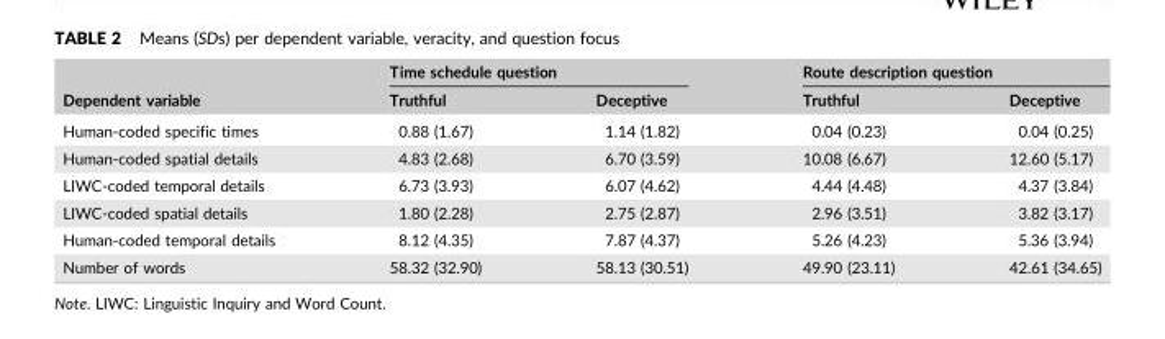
<table><thead><tr><td rowspan="2">Dependent variable</td><td colspan="2">Time schedule question</td><td colspan="2">Route description question</td></tr><tr><td>Truthful</td><td>Deceptive</td><td>Truthful</td><td>Deceptive</td></tr></thead><tbody><tr><td>Human‐coded specific times</td><td>0.88 (1.67)</td><td>1.14 (1.82)</td><td>0.04 (0.23)</td><td>0.04 (0.25)</td></tr><tr><td>Human‐coded spatial details</td><td>4.83 (2.68)</td><td>6.70 (3.59)</td><td>10.08 (6.67)</td><td>12.60 (5.17)</td></tr><tr><td>LIWC‐coded temporal details</td><td>6.73 (3.93)</td><td>6.07 (4.62)</td><td>4.44 (4.48)</td><td>4.37 (3.84)</td></tr><tr><td>LIWC‐coded spatial details</td><td>1.80 (2.28)</td><td>2.75 (2.87)</td><td>2.96 (3.51)</td><td>3.82 (3.17)</td></tr><tr><td>Human‐coded temporal details</td><td>8.12 (4.35)</td><td>7.87 (4.37)</td><td>5.26 (4.23)</td><td>5.36 (3.94)</td></tr><tr><td>Number of words</td><td>58.32 (32.90)</td><td>58.13 (30.51)</td><td>49.90 (23.11)</td><td>42.61 (34.65)</td></tr></tbody></table>